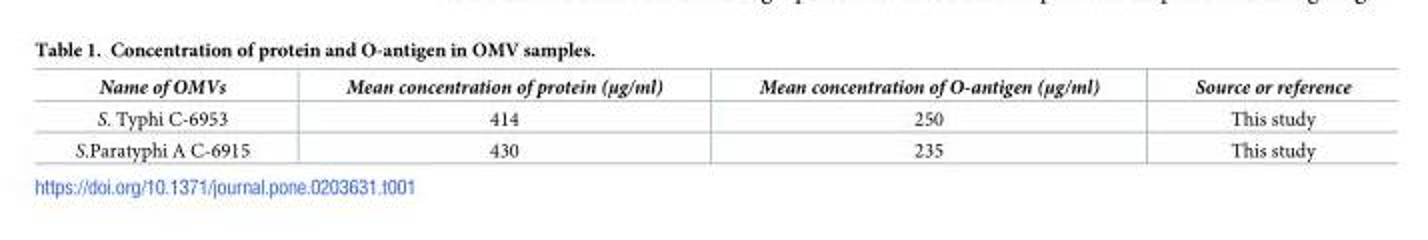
<table><thead><tr><td>Name of OMVs</td><td>Mean concentration of protein (μg/ml)</td><td>Mean concentration of O-antigen (μg/ml)</td><td>Source or reference</td></tr></thead><tbody><tr><td>S. Typhi C-6953</td><td>414</td><td>250</td><td>This study</td></tr><tr><td>S.Paratyphi A C-6915</td><td>430</td><td>235</td><td>This study</td></tr></tbody></table>